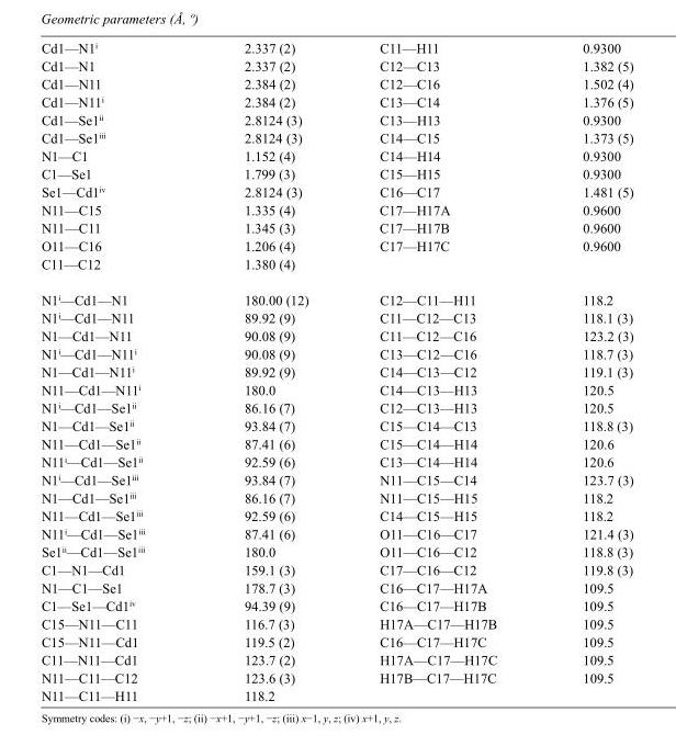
<table><tbody><tr><td>Cd1—N1<sup>i</sup></td><td>2.337 (2)</td><td>C11—H11</td><td>0.9300</td></tr><tr><td>Cd1—N1</td><td>2.337 (2)</td><td>C12—C13</td><td>1.382 (5)</td></tr><tr><td>Cd1—N11</td><td>2.384 (2)</td><td>C12—C16</td><td>1.502 (4)</td></tr><tr><td>Cd1—N11<sup>i</sup></td><td>2.384 (2)</td><td>C13—C14</td><td>1.376 (5)</td></tr><tr><td>Cd1—Se1<sup>ii</sup></td><td>2.8124 (3)</td><td>C13—H13</td><td>0.9300</td></tr><tr><td>Cd1—Se1<sup>iii</sup></td><td>2.8124 (3)</td><td>C14—C15</td><td>1.373 (5)</td></tr><tr><td>N1—C1</td><td>1.152 (4)</td><td>C14—H14</td><td>0.9300</td></tr><tr><td>C1—Se1</td><td>1.799 (3)</td><td>C15—H15</td><td>0.9300</td></tr><tr><td>Se1—Cd1<sup>iv</sup></td><td>2.8124 (3)</td><td>C16—C17</td><td>1.481 (5)</td></tr><tr><td>N11—C15</td><td>1.335 (4)</td><td>C17—H17A</td><td>0.9600</td></tr><tr><td>N11—C11</td><td>1.345 (3)</td><td>C17—H17B</td><td>0.9600</td></tr><tr><td>O11—C16</td><td>1.206 (4)</td><td>C17—H17C</td><td>0.9600</td></tr><tr><td>C11—C12</td><td>1.380 (4)</td><td></td><td></td></tr><tr><td>N1<sup>i</sup>—Cd1—N1</td><td>180.00 (12)</td><td>C12—C11—H11</td><td>118.2</td></tr><tr><td>N1<sup>i</sup>—Cd1—N11</td><td>89.92 (9)</td><td>C11—C12—C13</td><td>118.1 (3)</td></tr><tr><td>N1—Cd1—N11</td><td>90.08 (9)</td><td>C11—C12—C16</td><td>123.2 (3)</td></tr><tr><td>N1<sup>i</sup>—Cd1—N11<sup>i</sup></td><td>90.08 (9)</td><td>C13—C12—C16</td><td>118.7 (3)</td></tr><tr><td>N1—Cd1—N11<sup>i</sup></td><td>89.92 (9)</td><td>C14—C13—C12</td><td>119.1 (3)</td></tr><tr><td>N11—Cd1—N11<sup>i</sup></td><td>180.0</td><td>C14—C13—H13</td><td>120.5</td></tr><tr><td>N1<sup>i</sup>—Cd1—Se1<sup>ii</sup></td><td>86.16 (7)</td><td>C12—C13—H13</td><td>120.5</td></tr><tr><td>N1—Cd1—Se1<sup>ii</sup></td><td>93.84 (7)</td><td>C15—C14—C13</td><td>118.8 (3)</td></tr><tr><td>N11—Cd1—Se1<sup>ii</sup></td><td>87.41 (6)</td><td>C15—C14—H14</td><td>120.6</td></tr><tr><td>N11<sup>i</sup>—Cd1—Se1<sup>ii</sup></td><td>92.59 (6)</td><td>C13—C14—H14</td><td>120.6</td></tr><tr><td>N1<sup>i</sup>—Cd1—Se1<sup>iii</sup></td><td>93.84 (7)</td><td>N11—C15—C14</td><td>123.7 (3)</td></tr><tr><td>N1—Cd1—Se1<sup>iii</sup></td><td>86.16 (7)</td><td>N11—C15—H15</td><td>118.2</td></tr><tr><td>N11—Cd1—Se1<sup>iii</sup></td><td>92.59 (6)</td><td>C14—C15—H15</td><td>118.2</td></tr><tr><td>N11<sup>i</sup>—Cd1—Se1<sup>iii</sup></td><td>87.41 (6)</td><td>O11—C16—C17</td><td>121.4 (3)</td></tr><tr><td>Se1<sup>ii</sup>—Cd1—Se1<sup>iii</sup></td><td>180.0</td><td>O11—C16—C12</td><td>118.8 (3)</td></tr><tr><td>C1—N1—Cd1</td><td>159.1 (3)</td><td>C17—C16—C12</td><td>119.8 (3)</td></tr><tr><td>N1—C1—Se1</td><td>178.7 (3)</td><td>C16—C17—H17A</td><td>109.5</td></tr><tr><td>C1—Se1—Cd1<sup>iv</sup></td><td>94.39 (9)</td><td>C16—C17—H17B</td><td>109.5</td></tr><tr><td>C15—N11—C11</td><td>116.7 (3)</td><td>H17A—C17—H17B</td><td>109.5</td></tr><tr><td>C15—N11—Cd1</td><td>119.5 (2)</td><td>C16—C17—H17C</td><td>109.5</td></tr><tr><td>C11—N11—Cd1</td><td>123.7 (2)</td><td>H17A—C17—H17C</td><td>109.5</td></tr><tr><td>N11—C11—C12</td><td>123.6 (3)</td><td>H17B—C17—H17C</td><td>109.5</td></tr><tr><td>N11—C11—H11</td><td>118.2</td><td></td><td></td></tr></tbody></table>